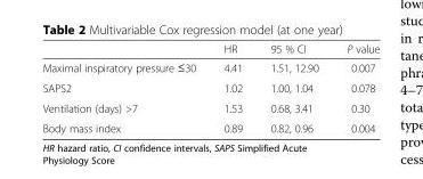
<table><thead><tr><td></td><td>HR</td><td>95 % CI</td><td>P value</td></tr></thead><tbody><tr><td>Maximal inspiratory pressure ≤30</td><td>4.41</td><td>1.51, 12.90</td><td>0.007</td></tr><tr><td>SAPS2</td><td>1.02</td><td>1.00, 1.04</td><td>0.078</td></tr><tr><td>Ventilation (days) &gt;7</td><td>1.53</td><td>0.68, 3.41</td><td>0.30</td></tr><tr><td>Body mass index</td><td>0.89</td><td>0.82, 0.96</td><td>0.004</td></tr></tbody></table>